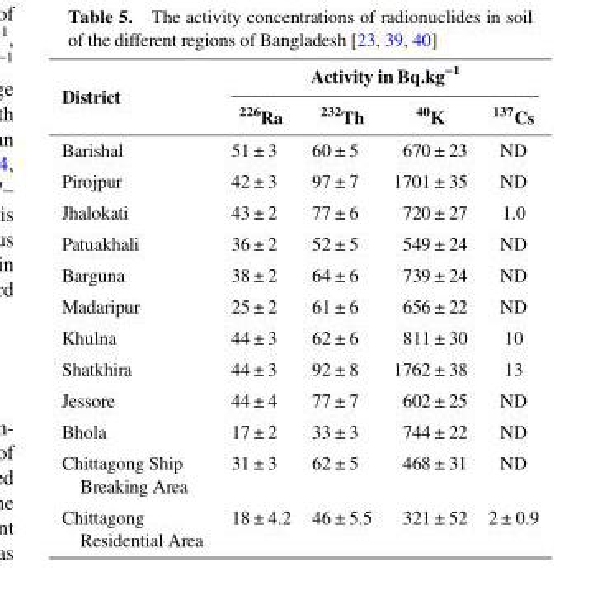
<table><thead><tr><td rowspan="2">District</td><td colspan="4">Activity in Bq.kg<sup>−1</sup></td></tr><tr><td><sup>226</sup>Ra</td><td><sup>232</sup>Th</td><td><sup>40</sup>K</td><td><sup>137</sup>Cs</td></tr></thead><tbody><tr><td>Barishal</td><td>51 ± 3</td><td>60 ± 5</td><td>670 ± 23</td><td>ND</td></tr><tr><td>Pirojpur</td><td>42 ± 3</td><td>97 ± 7</td><td>1701 ± 35</td><td>ND</td></tr><tr><td>Jhalokati</td><td>43 ± 2</td><td>77 ± 6</td><td>720 ± 27</td><td>1.0</td></tr><tr><td>Patuakhali</td><td>36 ± 2</td><td>52 ± 5</td><td>549 ± 24</td><td>ND</td></tr><tr><td>Barguna</td><td>38 ± 2</td><td>64 ± 6</td><td>739 ± 24</td><td>ND</td></tr><tr><td>Madaripur</td><td>25 ± 2</td><td>61 ± 6</td><td>656 ± 22</td><td>ND</td></tr><tr><td>Khulna</td><td>44 ± 3</td><td>62 ± 6</td><td>811 ± 30</td><td>10</td></tr><tr><td>Shatkhira</td><td>44 ± 3</td><td>92 ± 8</td><td>1762 ± 38</td><td>13</td></tr><tr><td>Jessore</td><td>44 ± 4</td><td>77 ± 7</td><td>602 ± 25</td><td>ND</td></tr><tr><td>Bhola</td><td>17 ± 2</td><td>33 ± 3</td><td>744 ± 22</td><td>ND</td></tr><tr><td>Chittagong Ship Breaking Area</td><td>31 ± 3</td><td>62 ± 5</td><td>468 ± 31</td><td>ND</td></tr><tr><td>Chittagong Residential Area</td><td>18 ± 4.2</td><td>46 ± 5.5</td><td>321 ± 52</td><td>2 ± 0.9</td></tr></tbody></table>